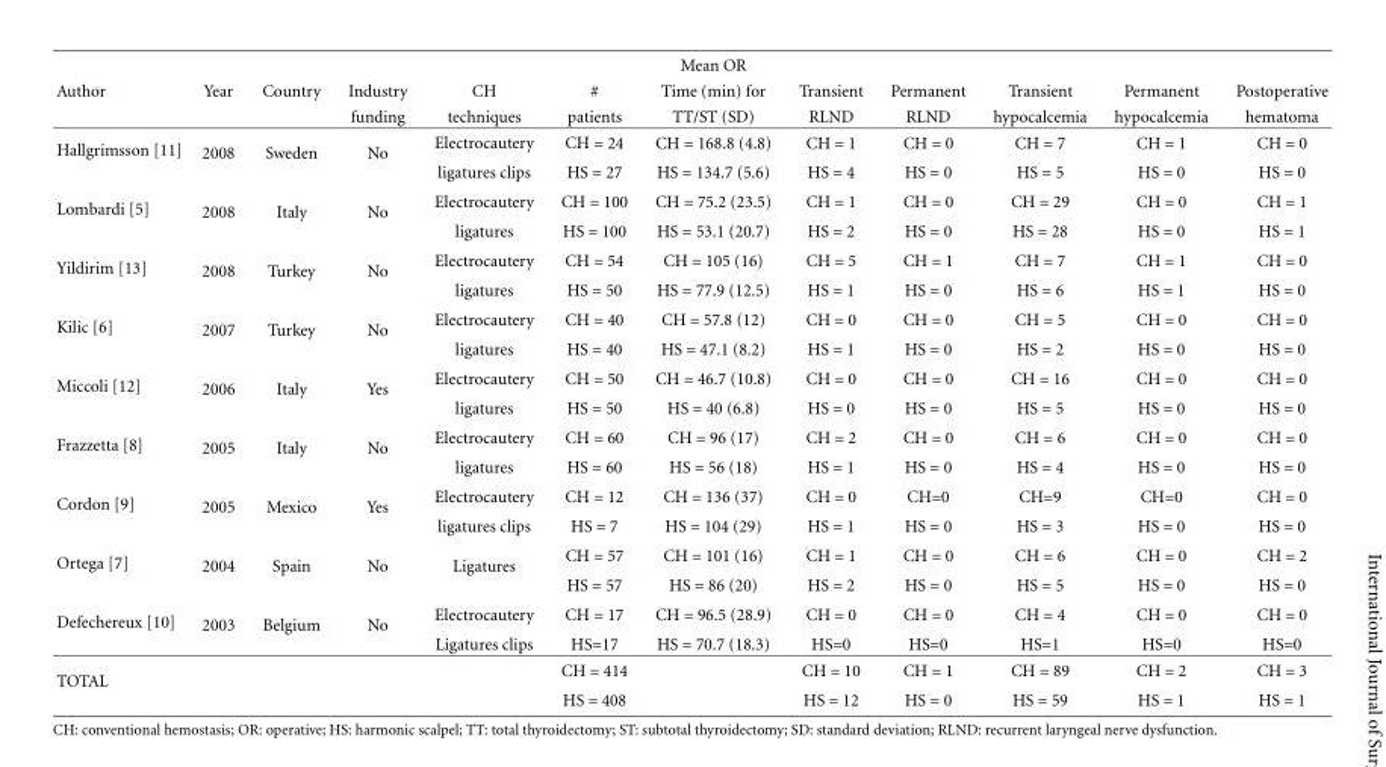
<table><thead><tr><td rowspan="3">Author</td><td rowspan="3">Year</td><td rowspan="3">Country</td><td rowspan="3">Industry funding</td><td rowspan="3">CH techniques</td><td rowspan="3"># patients</td><td rowspan="3">Mean OR Time (min) for TT/ST (SD)</td><td rowspan="3">Transient RLND</td><td rowspan="3">Permanent RLND</td><td rowspan="3">Transient hypocalcemia</td><td rowspan="3">Permanent hypocalcemia</td><td rowspan="3">Postoperative hematoma</td></tr><tr></tr><tr></tr></thead><tbody><tr><td rowspan="2">Hallgrimsson [11]</td><td rowspan="2">2008</td><td rowspan="2">Sweden</td><td rowspan="2">No</td><td>Electrocautery</td><td>CH = 24</td><td>CH = 168.8 (4.8)</td><td>CH = 1</td><td>CH = 0</td><td>CH = 7</td><td>CH = 1</td><td>CH = 0</td></tr><tr><td>ligatures clips</td><td>HS = 27</td><td>HS = 134.7 (5.6)</td><td>HS = 4</td><td>HS = 0</td><td>HS = 5</td><td>HS = 0</td><td>HS = 0</td></tr><tr><td rowspan="2">Lombardi [5]</td><td rowspan="2">2008</td><td rowspan="2">Italy</td><td rowspan="2">No</td><td>Electrocautery</td><td>CH = 100</td><td>CH = 75.2 (23.5)</td><td>CH = 1</td><td>CH = 0</td><td>CH = 29</td><td>CH = 0</td><td>CH = 1</td></tr><tr><td>ligatures</td><td>HS = 100</td><td>HS = 53.1 (20.7)</td><td>HS = 2</td><td>HS = 0</td><td>HS = 28</td><td>HS = 0</td><td>HS = 1</td></tr><tr><td rowspan="2">Yildirim [13]</td><td rowspan="2">2008</td><td rowspan="2">Turkey</td><td rowspan="2">No</td><td>Electrocautery</td><td>CH = 54</td><td>CH = 105 (16)</td><td>CH = 5</td><td>CH = 1</td><td>CH = 7</td><td>CH = 1</td><td>CH = 0</td></tr><tr><td>ligatures</td><td>HS = 50</td><td>HS = 77.9 (12.5)</td><td>HS = 1</td><td>HS = 0</td><td>HS = 6</td><td>HS = 1</td><td>HS = 0</td></tr><tr><td rowspan="2">Kilic [6]</td><td rowspan="2">2007</td><td rowspan="2">Turkey</td><td rowspan="2">No</td><td>Electrocautery</td><td>CH = 40</td><td>CH = 57.8 (12)</td><td>CH = 0</td><td>CH = 0</td><td>CH = 5</td><td>CH = 0</td><td>CH = 0</td></tr><tr><td>ligatures</td><td>HS = 40</td><td>HS = 47.1 (8.2)</td><td>HS = 1</td><td>HS = 0</td><td>HS = 2</td><td>HS = 0</td><td>HS = 0</td></tr><tr><td rowspan="2">Miccoli [12]</td><td rowspan="2">2006</td><td rowspan="2">Italy</td><td rowspan="2">Yes</td><td>Electrocautery</td><td>CH = 50</td><td>CH = 46.7 (10.8)</td><td>CH = 0</td><td>CH = 0</td><td>CH = 16</td><td>CH = 0</td><td>CH = 0</td></tr><tr><td>ligatures</td><td>HS = 50</td><td>HS = 40 (6.8)</td><td>HS = 0</td><td>HS = 0</td><td>HS = 5</td><td>HS = 0</td><td>HS = 0</td></tr><tr><td rowspan="2">Frazzetta [8]</td><td rowspan="2">2005</td><td rowspan="2">Italy</td><td rowspan="2">No</td><td>Electrocautery</td><td>CH = 60</td><td>CH = 96 (17)</td><td>CH = 2</td><td>CH = 0</td><td>CH = 6</td><td>CH = 0</td><td>CH = 0</td></tr><tr><td>ligatures</td><td>HS = 60</td><td>HS = 56 (18)</td><td>HS = 1</td><td>HS = 0</td><td>HS = 4</td><td>HS = 0</td><td>HS = 0</td></tr><tr><td rowspan="2">Cordon [9]</td><td rowspan="2">2005</td><td rowspan="2">Mexico</td><td rowspan="2">Yes</td><td>Electrocautery</td><td>CH = 12</td><td>CH = 136 (37)</td><td>CH = 0</td><td>CH=0</td><td>CH=9</td><td>CH=0</td><td>CH = 0</td></tr><tr><td>ligatures clips</td><td>HS = 7</td><td>HS = 104 (29)</td><td>HS = 1</td><td>HS = 0</td><td>HS = 3</td><td>HS = 0</td><td>HS = 0</td></tr><tr><td rowspan="2">Ortega [7]</td><td rowspan="2">2004</td><td rowspan="2">Spain</td><td rowspan="2">No</td><td rowspan="2">Ligatures</td><td>CH = 57</td><td>CH = 101 (16)</td><td>CH = 1</td><td>CH = 0</td><td>CH = 6</td><td>CH = 0</td><td>CH = 2</td></tr><tr><td>HS = 57</td><td>HS = 86 (20)</td><td>HS = 2</td><td>HS = 0</td><td>HS = 5</td><td>HS = 0</td><td>HS = 0</td></tr><tr><td rowspan="2">Defechereux [10]</td><td rowspan="2">2003</td><td rowspan="2">Belgium</td><td rowspan="2">No</td><td>Electrocautery</td><td>CH = 17</td><td>CH = 96.5 (28.9)</td><td>CH = 0</td><td>CH = 0</td><td>CH = 4</td><td>CH = 0</td><td>CH = 0</td></tr><tr><td>Ligatures clips</td><td>HS=17</td><td>HS = 70.7 (18.3)</td><td>HS=0</td><td>HS=0</td><td>HS=1</td><td>HS=0</td><td>HS=0</td></tr><tr><td rowspan="2">TOTAL</td><td></td><td></td><td></td><td></td><td>CH = 414</td><td></td><td>CH = 10</td><td>CH = 1</td><td>CH = 89</td><td>CH = 2</td><td>CH = 3</td></tr><tr><td></td><td></td><td></td><td></td><td>HS = 408</td><td></td><td>HS = 12</td><td>HS = 0</td><td>HS = 59</td><td>HS = 1</td><td>HS = 1</td></tr></tbody></table>